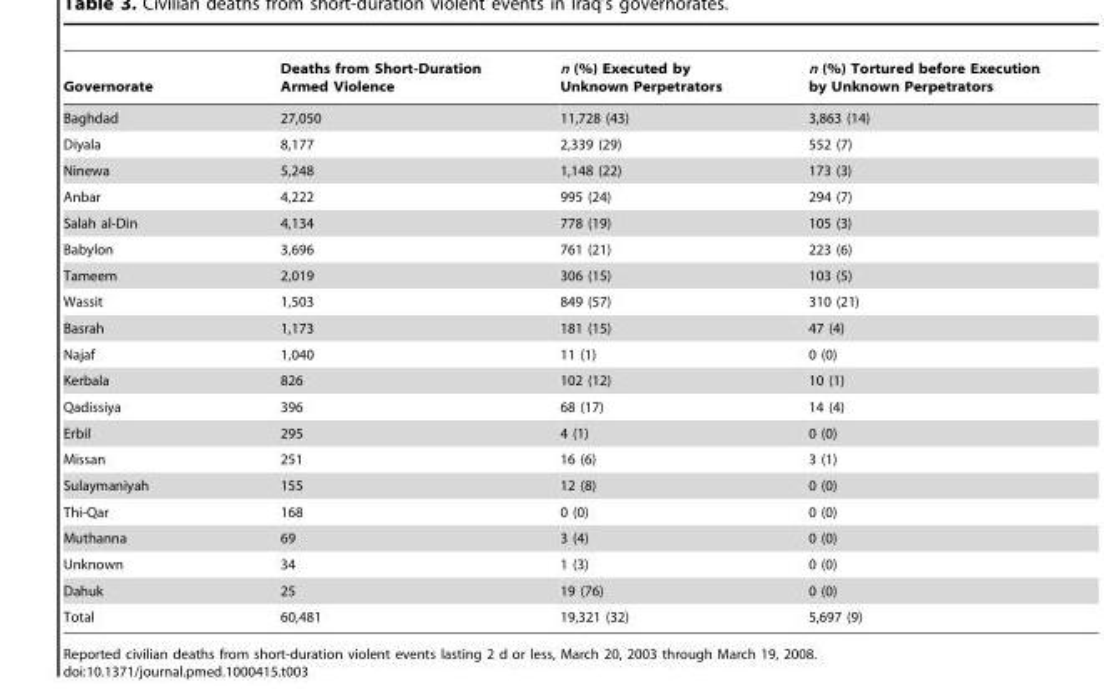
<table><thead><tr><td>Governorate</td><td>Deaths from Short-Duration Armed Violence</td><td>n (%) Executed by Unknown Perpetrators</td><td>n (%) Tortured before Execution by Unknown Perpetrators</td></tr></thead><tbody><tr><td>Baghdad</td><td>27,050</td><td>11,728 (43)</td><td>3,863 (14)</td></tr><tr><td>Diyala</td><td>8,177</td><td>2,339 (29)</td><td>552 (7)</td></tr><tr><td>Ninewa</td><td>5,248</td><td>1,148 (22)</td><td>173 (3)</td></tr><tr><td>Anbar</td><td>4,222</td><td>995 (24)</td><td>294 (7)</td></tr><tr><td>Salah al-Din</td><td>4,134</td><td>778 (19)</td><td>105 (3)</td></tr><tr><td>Babylon</td><td>3,696</td><td>761 (21)</td><td>223 (6)</td></tr><tr><td>Tameem</td><td>2,019</td><td>306 (15)</td><td>103 (5)</td></tr><tr><td>Wassit</td><td>1,503</td><td>849 (57)</td><td>310 (21)</td></tr><tr><td>Basrah</td><td>1,173</td><td>181 (15)</td><td>47 (4)</td></tr><tr><td>Najaf</td><td>1,040</td><td>11 (1)</td><td>0 (0)</td></tr><tr><td>Kerbala</td><td>826</td><td>102 (12)</td><td>10 (1)</td></tr><tr><td>Qadissiya</td><td>396</td><td>68 (17)</td><td>14 (4)</td></tr><tr><td>Erbil</td><td>295</td><td>4 (1)</td><td>0 (0)</td></tr><tr><td>Missan</td><td>251</td><td>16 (6)</td><td>3 (1)</td></tr><tr><td>Sulaymaniyah</td><td>155</td><td>12 (8)</td><td>0 (0)</td></tr><tr><td>Thi-Qar</td><td>168</td><td>0 (0)</td><td>0 (0)</td></tr><tr><td>Muthanna</td><td>69</td><td>3 (4)</td><td>0 (0)</td></tr><tr><td>Unknown</td><td>34</td><td>1 (3)</td><td>0 (0)</td></tr><tr><td>Dahuk</td><td>25</td><td>19 (76)</td><td>0 (0)</td></tr><tr><td>Total</td><td>60,481</td><td>19,321 (32)</td><td>5,697 (9)</td></tr></tbody></table>